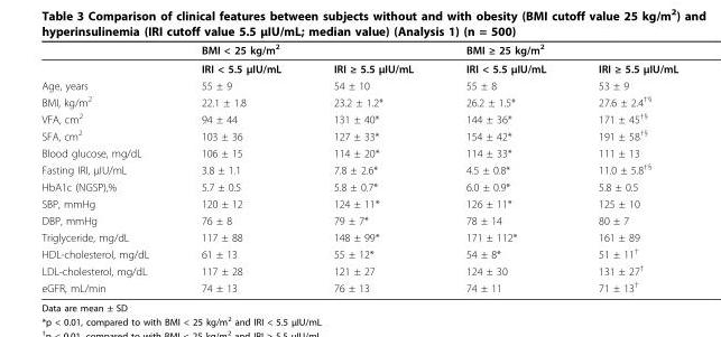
<table><thead><tr><td></td><td>BMI &lt; 25 kg/m<sup>2</sup></td><td></td><td>BMI ≥ 25 kg/m<sup>2</sup></td><td></td></tr></thead><tbody><tr><td></td><td>IRI &lt; 5.5 μIU/mL</td><td>IRI ≥ 5.5 μIU/mL</td><td>IRI &lt; 5.5 μIU/mL</td><td>IRI ≥ 5.5 μIU/mL</td></tr><tr><td>Age, years</td><td>55 ± 9</td><td>54 ± 10</td><td>55 ± 8</td><td>53 ± 9</td></tr><tr><td>BMI, kg/m<sup>2</sup></td><td>22.1 ± 1.8</td><td>23.2 ± 1.2*</td><td>26.2 ± 1.5*</td><td>27.6 ± 2.4<sup>†§</sup></td></tr><tr><td>VFA, cm<sup>2</sup></td><td>94 ± 44</td><td>131 ± 40*</td><td>144 ± 36*</td><td>171 ± 45<sup>†§</sup></td></tr><tr><td>SFA, cm<sup>2</sup></td><td>103 ± 36</td><td>127 ± 33*</td><td>154 ± 42*</td><td>191 ± 58<sup>†§</sup></td></tr><tr><td>Blood glucose, mg/dL</td><td>106 ± 15</td><td>114 ± 20*</td><td>114 ± 33*</td><td>111 ± 13</td></tr><tr><td>Fasting IRI, μIU/mL</td><td>3.8 ± 1.1</td><td>7.8 ± 2.6*</td><td>4.5 ± 0.8*</td><td>11.0 ± 5.8<sup>†§</sup></td></tr><tr><td>HbA1c (NGSP),%</td><td>5.7 ± 0.5</td><td>5.8 ± 0.7*</td><td>6.0 ± 0.9*</td><td>5.8 ± 0.5</td></tr><tr><td>SBP, mmHg</td><td>120 ± 12</td><td>124 ± 11*</td><td>126 ± 11*</td><td>125 ± 10</td></tr><tr><td>DBP, mmHg</td><td>76 ± 8</td><td>79 ± 7*</td><td>78 ± 14</td><td>80 ± 7</td></tr><tr><td>Triglyceride, mg/dL</td><td>117 ± 88</td><td>148 ± 99*</td><td>171 ± 112*</td><td>161 ± 89</td></tr><tr><td>HDL-cholesterol, mg/dL</td><td>61 ± 13</td><td>55 ± 12*</td><td>54 ± 8*</td><td>51 ± 11<sup>†</sup></td></tr><tr><td>LDL-cholesterol, mg/dL</td><td>117 ± 28</td><td>121 ± 27</td><td>124 ± 30</td><td>131 ± 27<sup>†</sup></td></tr><tr><td>eGFR, mL/min</td><td>74 ± 13</td><td>76 ± 13</td><td>74 ± 11</td><td>71 ± 13<sup>†</sup></td></tr></tbody></table>